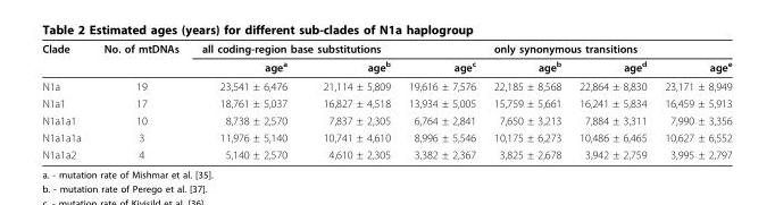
<table><thead><tr><td rowspan="2">Clade</td><td rowspan="2">No. of mtDNAs</td><td colspan="2">all coding-region base substitutions</td><td colspan="4">only synonymous transitions</td></tr><tr><td>age<sup>a</sup></td><td>age<sup>b</sup></td><td>age<sup>c</sup></td><td>age<sup>b</sup></td><td>age<sup>d</sup></td><td>age<sup>e</sup></td></tr></thead><tbody><tr><td>N1a</td><td>19</td><td>23,541 ± 6,476</td><td>21,114 ± 5,809</td><td>19,616 ± 7,576</td><td>22,185 ± 8,568</td><td>22,864 ± 8,830</td><td>23,171 ± 8,949</td></tr><tr><td>N1a1</td><td>17</td><td>18,761 ± 5,037</td><td>16,827 ± 4,518</td><td>13,934 ± 5,005</td><td>15,759 ± 5,661</td><td>16,241 ± 5,834</td><td>16,459 ± 5,913</td></tr><tr><td>N1a1a1</td><td>10</td><td>8,738 ± 2,570</td><td>7,837 ± 2,305</td><td>6,764 ± 2,841</td><td>7,650 ± 3,213</td><td>7,884 ± 3,311</td><td>7,990 ± 3,356</td></tr><tr><td>N1a1a1a</td><td>3</td><td>11,976 ± 5,140</td><td>10,741 ± 4,610</td><td>8,996 ± 5,546</td><td>10,175 ± 6,273</td><td>10,486 ± 6,465</td><td>10,627 ± 6,552</td></tr><tr><td>N1a1a2</td><td>4</td><td>5,140 ± 2,570</td><td>4,610 ± 2,305</td><td>3,382 ± 2,367</td><td>3,825 ± 2,678</td><td>3,942 ± 2,759</td><td>3,995 ± 2,797</td></tr></tbody></table>